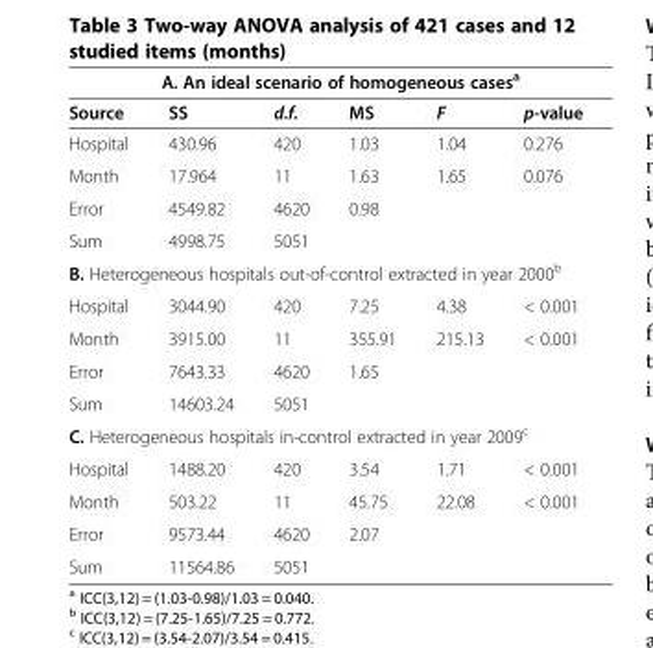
<table><thead><tr><td colspan="6">A. An ideal scenario of homogeneous cases<sup>a</sup></td></tr><tr><td>Source</td><td>SS</td><td>d.f.</td><td>MS</td><td>F</td><td>p-value</td></tr></thead><tbody><tr><td>Hospital</td><td>430.96</td><td>420</td><td>1.03</td><td>1.04</td><td>0.276</td></tr><tr><td>Month</td><td>17.964</td><td>11</td><td>1.63</td><td>1.65</td><td>0.076</td></tr><tr><td>Error</td><td>4549.82</td><td>4620</td><td>0.98</td><td></td><td></td></tr><tr><td>Sum</td><td>4998.75</td><td>5051</td><td></td><td></td><td></td></tr><tr><td colspan="6">B. Heterogeneous hospitals out-of-control extracted in year 2000<sup>b</sup></td></tr><tr><td>Hospital</td><td>3044.90</td><td>420</td><td>7.25</td><td>4.38</td><td>&lt; 0.001</td></tr><tr><td>Month</td><td>3915.00</td><td>11</td><td>355.91</td><td>215.13</td><td>&lt; 0.001</td></tr><tr><td>Error</td><td>7643.33</td><td>4620</td><td>1.65</td><td></td><td></td></tr><tr><td>Sum</td><td>14603.24</td><td>5051</td><td></td><td></td><td></td></tr><tr><td colspan="6">C. Heterogeneous hospitals in-control extracted in year 2009<sup>c</sup></td></tr><tr><td>Hospital</td><td>1488.20</td><td>420</td><td>3.54</td><td>1.71</td><td>&lt; 0.001</td></tr><tr><td>Month</td><td>503.22</td><td>11</td><td>45.75</td><td>22.08</td><td>&lt; 0.001</td></tr><tr><td>Error</td><td>9573.44</td><td>4620</td><td>2.07</td><td></td><td></td></tr><tr><td>Sum</td><td>11564.86</td><td>5051</td><td></td><td></td><td></td></tr></tbody></table>